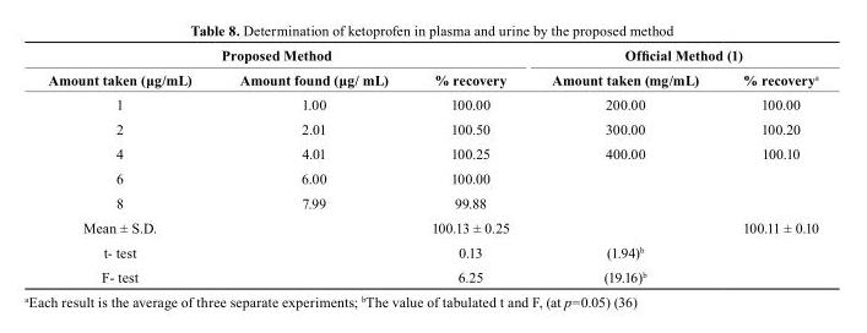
<table><thead><tr><td colspan="3">Proposed Method</td><td colspan="2">Official Method (1)</td></tr><tr><td>Amount taken (μg/mL)</td><td>Amount found (μg/ mL)</td><td>% recovery</td><td>Amount taken (mg/mL)</td><td>% recovery<sup>a</sup></td></tr></thead><tbody><tr><td>1</td><td>1.00</td><td>100.00</td><td>200.00</td><td>100.00</td></tr><tr><td>2</td><td>2.01</td><td>100.50</td><td>300.00</td><td>100.20</td></tr><tr><td>4</td><td>4.01</td><td>100.25</td><td>400.00</td><td>100.10</td></tr><tr><td>6</td><td>6.00</td><td>100.00</td><td></td><td></td></tr><tr><td>8</td><td>7.99</td><td>99.88</td><td></td><td></td></tr><tr><td>Mean ± S.D.</td><td></td><td>100.13 ± 0.25</td><td></td><td>100.11 ± 0.10</td></tr><tr><td>t- test</td><td></td><td>0.13</td><td>(1.94)<sup>b</sup></td><td></td></tr><tr><td>F- test</td><td></td><td>6.25</td><td>(19.16)<sup>b</sup></td><td></td></tr></tbody></table>